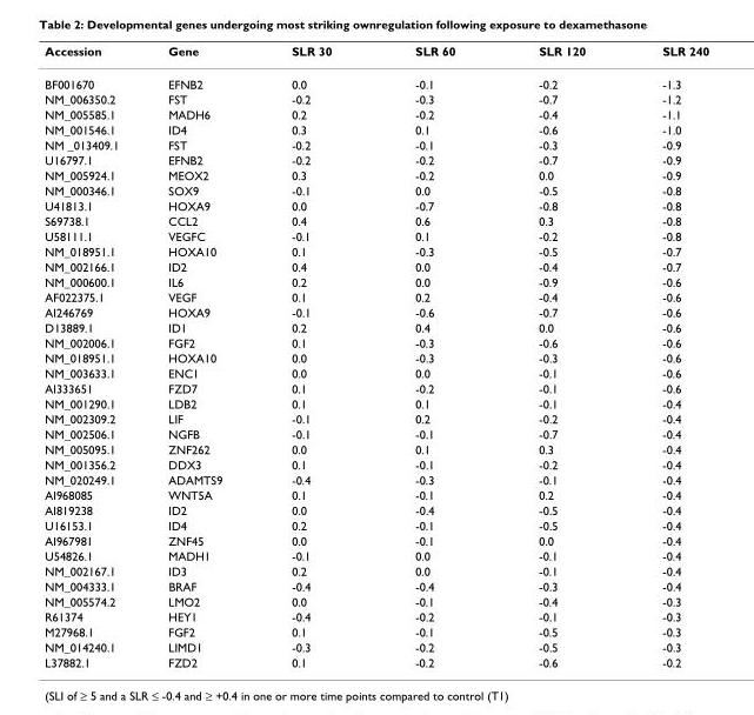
<table><thead><tr><td>Accession</td><td>Gene</td><td>SLR 30</td><td>SLR 60</td><td>SLR 120</td><td>SLR 240</td></tr></thead><tbody><tr><td>BF001670</td><td>EFNB2</td><td>0.0</td><td>-0.1</td><td>-0.2</td><td>-1.3</td></tr><tr><td>NM_006350.2</td><td>FST</td><td>-0.2</td><td>-0.3</td><td>-0.7</td><td>-1.2</td></tr><tr><td>NM_005585.1</td><td>MADH6</td><td>0.2</td><td>-0.2</td><td>-0.4</td><td>-1.1</td></tr><tr><td>NM_001546.1</td><td>ID4</td><td>0.3</td><td>0.1</td><td>-0.6</td><td>-1.0</td></tr><tr><td>NM _013409.1</td><td>FST</td><td>-0.2</td><td>-0.1</td><td>-0.3</td><td>-0.9</td></tr><tr><td>U16797.1</td><td>EFNB2</td><td>-0.2</td><td>-0.2</td><td>-0.7</td><td>-0.9</td></tr><tr><td>NM_005924.1</td><td>MEOX2</td><td>0.3</td><td>-0.2</td><td>0.0</td><td>-0.9</td></tr><tr><td>NM_000346.1</td><td>SOX9</td><td>-0.1</td><td>0.0</td><td>-0.5</td><td>-0.8</td></tr><tr><td>U41813.1</td><td>HOXA9</td><td>0.0</td><td>-0.7</td><td>-0.8</td><td>-0.8</td></tr><tr><td>S69738.1</td><td>CCL2</td><td>0.4</td><td>0.6</td><td>0.3</td><td>-0.8</td></tr><tr><td>U58111.1</td><td>VEGFC</td><td>-0.1</td><td>0.1</td><td>-0.2</td><td>-0.8</td></tr><tr><td>NM_018951.1</td><td>HOXA10</td><td>0.1</td><td>-0.3</td><td>-0.5</td><td>-0.7</td></tr><tr><td>NM_002166.1</td><td>ID2</td><td>0.4</td><td>0.0</td><td>-0.4</td><td>-0.7</td></tr><tr><td>NM_000600.1</td><td>IL6</td><td>0.2</td><td>0.0</td><td>-0.9</td><td>-0.6</td></tr><tr><td>AF022375.1</td><td>VEGF</td><td>0.1</td><td>0.2</td><td>-0.4</td><td>-0.6</td></tr><tr><td>AI246769</td><td>HOXA9</td><td>-0.1</td><td>-0.6</td><td>-0.7</td><td>-0.6</td></tr><tr><td>D13889.1</td><td>ID1</td><td>0.2</td><td>0.4</td><td>0.0</td><td>-0.6</td></tr><tr><td>NM_002006.1</td><td>FGF2</td><td>0.1</td><td>-0.3</td><td>-0.6</td><td>-0.6</td></tr><tr><td>NM_018951.1</td><td>HOXA10</td><td>0.0</td><td>-0.3</td><td>-0.3</td><td>-0.6</td></tr><tr><td>NM_003633.1</td><td>ENC1</td><td>0.0</td><td>0.0</td><td>-0.1</td><td>-0.6</td></tr><tr><td>AI333651</td><td>FZD7</td><td>0.1</td><td>-0.2</td><td>-0.1</td><td>-0.6</td></tr><tr><td>NM_001290.1</td><td>LDB2</td><td>0.1</td><td>0.1</td><td>-0.1</td><td>-0.4</td></tr><tr><td>NM_002309.2</td><td>LIF</td><td>-0.1</td><td>0.2</td><td>-0.2</td><td>-0.4</td></tr><tr><td>NM_002506.1</td><td>NGFB</td><td>-0.1</td><td>-0.1</td><td>-0.7</td><td>-0.4</td></tr><tr><td>NM_005095.1</td><td>ZNF262</td><td>0.0</td><td>0.1</td><td>0.3</td><td>-0.4</td></tr><tr><td>NM_001356.2</td><td>DDX3</td><td>0.1</td><td>-0.1</td><td>-0.2</td><td>-0.4</td></tr><tr><td>NM_020249.1</td><td>ADAMTS9</td><td>-0.4</td><td>-0.3</td><td>-0.1</td><td>-0.4</td></tr><tr><td>AI968085</td><td>WNT5A</td><td>0.1</td><td>-0.1</td><td>0.2</td><td>-0.4</td></tr><tr><td>AI819238</td><td>ID2</td><td>0.0</td><td>-0.4</td><td>-0.5</td><td>-0.4</td></tr><tr><td>U16153.1</td><td>ID4</td><td>0.2</td><td>-0.1</td><td>-0.5</td><td>-0.4</td></tr><tr><td>AI967981</td><td>ZNF45</td><td>0.0</td><td>-0.1</td><td>0.0</td><td>-0.4</td></tr><tr><td>U54826.1</td><td>MADH1</td><td>-0.1</td><td>0.0</td><td>-0.1</td><td>-0.4</td></tr><tr><td>NM_002167.1</td><td>ID3</td><td>0.2</td><td>0.0</td><td>-0.1</td><td>-0.4</td></tr><tr><td>NM_004333.1</td><td>BRAF</td><td>-0.4</td><td>-0.4</td><td>-0.3</td><td>-0.4</td></tr><tr><td>NM_005574.2</td><td>LMO2</td><td>0.0</td><td>-0.1</td><td>-0.4</td><td>-0.3</td></tr><tr><td>R61374</td><td>HEY1</td><td>-0.4</td><td>-0.2</td><td>-0.1</td><td>-0.3</td></tr><tr><td>M27968.1</td><td>FGF2</td><td>0.1</td><td>-0.1</td><td>-0.5</td><td>-0.3</td></tr><tr><td>NM_014240.1</td><td>LIMD1</td><td>-0.3</td><td>-0.2</td><td>-0.5</td><td>-0.3</td></tr><tr><td>L37882.1</td><td>FZD2</td><td>0.1</td><td>-0.2</td><td>-0.6</td><td>-0.2</td></tr></tbody></table>